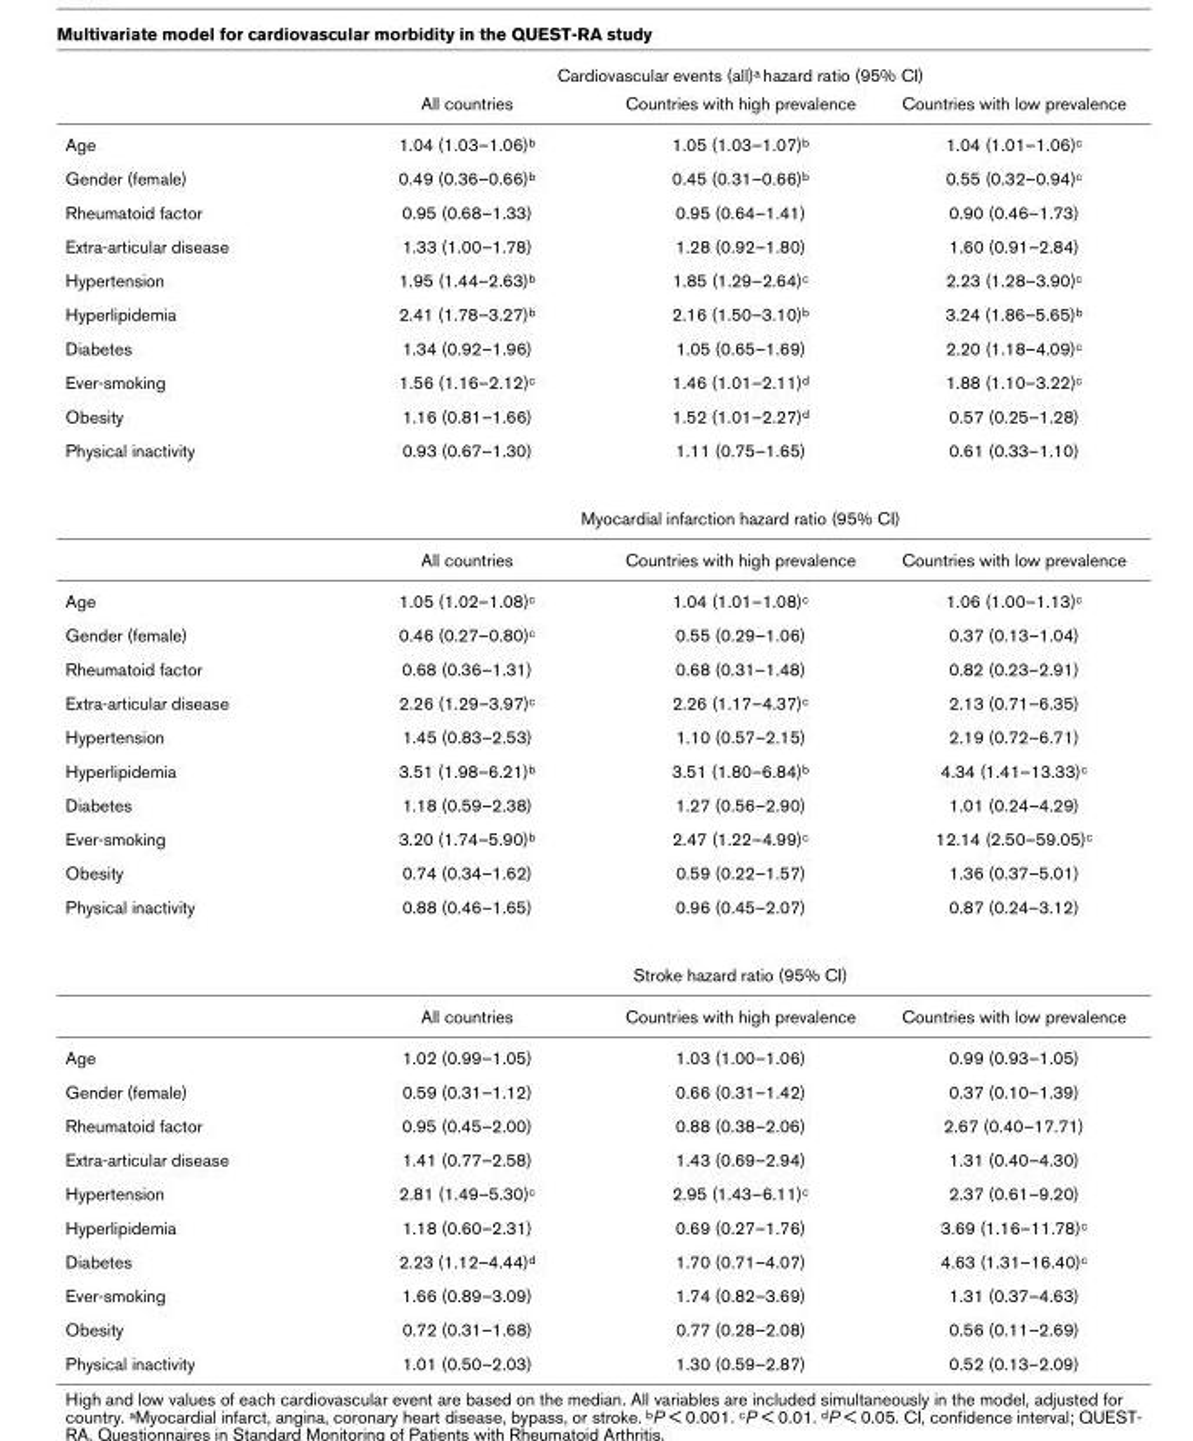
<table><thead><tr><td rowspan="2"></td><td colspan="3">Cardiovascular events (all)<sup>a</sup> hazard ratio (95% CI)</td></tr><tr><td>All countries</td><td>Countries with high prevalence</td><td>Countries with low prevalence</td></tr></thead><tbody><tr><td>Age</td><td>1.04 (1.03–1.06)<sup>b</sup></td><td>1.05 (1.03–1.07)<sup>b</sup></td><td>1.04 (1.01–1.06)<sup>c</sup></td></tr><tr><td>Gender (female)</td><td>0.49 (0.36–0.66)<sup>b</sup></td><td>0.45 (0.31–0.66)<sup>b</sup></td><td>0.55 (0.32–0.94)<sup>c</sup></td></tr><tr><td>Rheumatoid factor</td><td>0.95 (0.68–1.33)</td><td>0.95 (0.64–1.41)</td><td>0.90 (0.46–1.73)</td></tr><tr><td>Extra-articular disease</td><td>1.33 (1.00–1.78)</td><td>1.28 (0.92–1.80)</td><td>1.60 (0.91–2.84)</td></tr><tr><td>Hypertension</td><td>1.95 (1.44–2.63)<sup>b</sup></td><td>1.85 (1.29–2.64)<sup>c</sup></td><td>2.23 (1.28–3.90)<sup>c</sup></td></tr><tr><td>Hyperlipidemia</td><td>2.41 (1.78–3.27)<sup>b</sup></td><td>2.16 (1.50–3.10)<sup>b</sup></td><td>3.24 (1.86–5.65)<sup>b</sup></td></tr><tr><td>Diabetes</td><td>1.34 (0.92–1.96)</td><td>1.05 (0.65–1.69)</td><td>2.20 (1.18–4.09)<sup>c</sup></td></tr><tr><td>Ever-smoking</td><td>1.56 (1.16–2.12)<sup>c</sup></td><td>1.46 (1.01–2.11)<sup>d</sup></td><td>1.88 (1.10–3.22)<sup>c</sup></td></tr><tr><td>Obesity</td><td>1.16 (0.81–1.66)</td><td>1.52 (1.01–2.27)<sup>d</sup></td><td>0.57 (0.25–1.28)</td></tr><tr><td rowspan="3">Physical inactivity</td><td>0.93 (0.67–1.30)</td><td>1.11 (0.75–1.65)</td><td>0.61 (0.33–1.10)</td></tr><tr><td colspan="3">Myocardial infarction hazard ratio (95% CI)</td></tr><tr><td>All countries</td><td>Countries with high prevalence</td><td>Countries with low prevalence</td></tr><tr><td>Age</td><td>1.05 (1.02–1.08)<sup>c</sup></td><td>1.04 (1.01–1.08)<sup>c</sup></td><td>1.06 (1.00–1.13)<sup>c</sup></td></tr><tr><td>Gender (female)</td><td>0.46 (0.27–0.80)<sup>c</sup></td><td>0.55 (0.29–1.06)</td><td>0.37 (0.13–1.04)</td></tr><tr><td>Rheumatoid factor</td><td>0.68 (0.36–1.31)</td><td>0.68 (0.31–1.48)</td><td>0.82 (0.23–2.91)</td></tr><tr><td>Extra-articular disease</td><td>2.26 (1.29–3.97)<sup>c</sup></td><td>2.26 (1.17–4.37)<sup>c</sup></td><td>2.13 (0.71–6.35)</td></tr><tr><td>Hypertension</td><td>1.45 (0.83–2.53)</td><td>1.10 (0.57–2.15)</td><td>2.19 (0.72–6.71)</td></tr><tr><td>Hyperlipidemia</td><td>3.51 (1.98–6.21)<sup>b</sup></td><td>3.51 (1.80–6.84)<sup>b</sup></td><td>4.34 (1.41–13.33)<sup>c</sup></td></tr><tr><td>Diabetes</td><td>1.18 (0.59–2.38)</td><td>1.27 (0.56–2.90)</td><td>1.01 (0.24–4.29)</td></tr><tr><td>Ever-smoking</td><td>3.20 (1.74–5.90)<sup>b</sup></td><td>2.47 (1.22–4.99)<sup>c</sup></td><td>12.14 (2.50–59.05)<sup>c</sup></td></tr><tr><td>Obesity</td><td>0.74 (0.34–1.62)</td><td>0.59 (0.22–1.57)</td><td>1.36 (0.37–5.01)</td></tr><tr><td rowspan="3">Physical inactivity</td><td>0.88 (0.46–1.65)</td><td>0.96 (0.45–2.07)</td><td>0.87 (0.24–3.12)</td></tr><tr><td colspan="3">Stroke hazard ratio (95% CI)</td></tr><tr><td>All countries</td><td>Countries with high prevalence</td><td>Countries with low prevalence</td></tr><tr><td>Age</td><td>1.02 (0.99–1.05)</td><td>1.03 (1.00–1.06)</td><td>0.99 (0.93–1.05)</td></tr><tr><td>Gender (female)</td><td>0.59 (0.31–1.12)</td><td>0.66 (0.31–1.42)</td><td>0.37 (0.10–1.39)</td></tr><tr><td>Rheumatoid factor</td><td>0.95 (0.45–2.00)</td><td>0.88 (0.38–2.06)</td><td>2.67 (0.40–17.71)</td></tr><tr><td>Extra-articular disease</td><td>1.41 (0.77–2.58)</td><td>1.43 (0.69–2.94)</td><td>1.31 (0.40–4.30)</td></tr><tr><td>Hypertension</td><td>2.81 (1.49–5.30)<sup>c</sup></td><td>2.95 (1.43–6.11)<sup>c</sup></td><td>2.37 (0.61–9.20)</td></tr><tr><td>Hyperlipidemia</td><td>1.18 (0.60–2.31)</td><td>0.69 (0.27–1.76)</td><td>3.69 (1.16–11.78)<sup>c</sup></td></tr><tr><td>Diabetes</td><td>2.23 (1.12–4.44)<sup>d</sup></td><td>1.70 (0.71–4.07)</td><td>4.63 (1.31–16.40)<sup>c</sup></td></tr><tr><td>Ever-smoking</td><td>1.66 (0.89–3.09)</td><td>1.74 (0.82–3.69)</td><td>1.31 (0.37–4.63)</td></tr><tr><td>Obesity</td><td>0.72 (0.31–1.68)</td><td>0.77 (0.28–2.08)</td><td>0.56 (0.11–2.69)</td></tr><tr><td>Physical inactivity</td><td>1.01 (0.50–2.03)</td><td>1.30 (0.59–2.87)</td><td>0.52 (0.13–2.09)</td></tr></tbody></table>